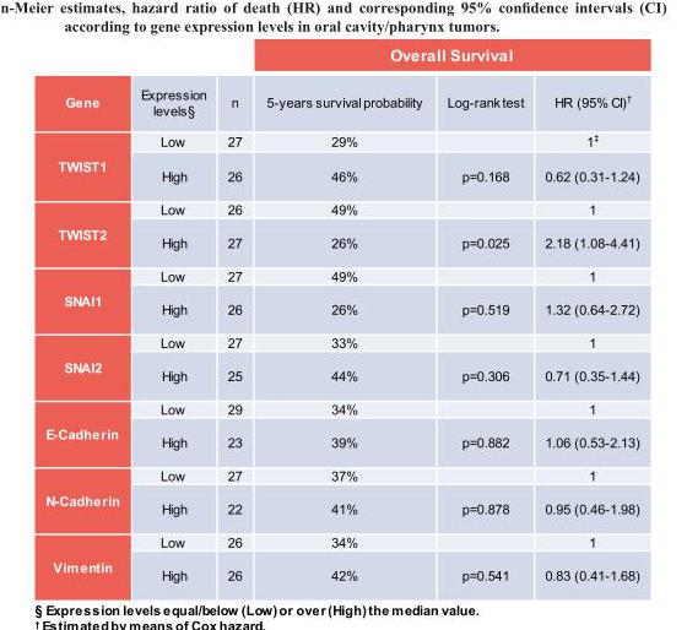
<table><thead><tr><td rowspan="2">Gene</td><td rowspan="2">Expression levels§</td><td rowspan="2">n</td><td colspan="3">Overall Survival</td></tr><tr><td>5-years survival probability</td><td>Log-rank test</td><td>HR (95% CI)<sup>†</sup></td></tr></thead><tbody><tr><td rowspan="2">TWIST1</td><td>Low</td><td>27</td><td>29%</td><td></td><td>1<sup>‡</sup></td></tr><tr><td>High</td><td>26</td><td>46%</td><td>p=0.168</td><td>0.62 (0.31-1.24)</td></tr><tr><td rowspan="2">TWIST2</td><td>Low</td><td>26</td><td>49%</td><td></td><td>1</td></tr><tr><td>High</td><td>27</td><td>26%</td><td>p=0.025</td><td>2.18 (1.08-4.41)</td></tr><tr><td rowspan="2">SNAI1</td><td>Low</td><td>27</td><td>49%</td><td></td><td>1</td></tr><tr><td>High</td><td>26</td><td>26%</td><td>p=0.519</td><td>1.32 (0.64-2.72)</td></tr><tr><td rowspan="2">SNAI2</td><td>Low</td><td>27</td><td>33%</td><td></td><td>1</td></tr><tr><td>High</td><td>25</td><td>44%</td><td>p=0.306</td><td>0.71 (0.35-1.44)</td></tr><tr><td rowspan="2">E-Cadherin</td><td>Low</td><td>29</td><td>34%</td><td></td><td>1</td></tr><tr><td>High</td><td>23</td><td>39%</td><td>p=0.882</td><td>1.06 (0.53-2.13)</td></tr><tr><td rowspan="2">N-Cadherin</td><td>Low</td><td>27</td><td>37%</td><td></td><td>1</td></tr><tr><td>High</td><td>22</td><td>41%</td><td>p=0.878</td><td>0.95 (0.46-1.98)</td></tr><tr><td rowspan="2">Vimentin</td><td>Low</td><td>26</td><td>34%</td><td></td><td>1</td></tr><tr><td>High</td><td>26</td><td>42%</td><td>p=0.541</td><td>0.83 (0.41-1.68)</td></tr></tbody></table>